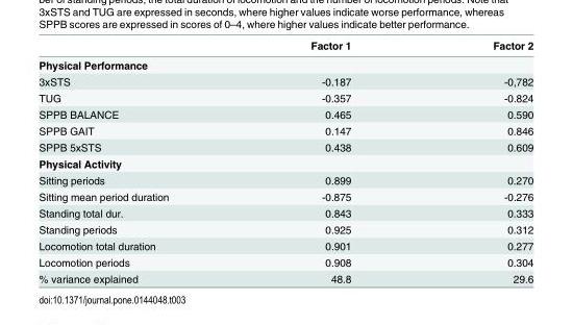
<table><thead><tr><td></td><td>Factor 1</td><td>Factor 2</td></tr></thead><tbody><tr><td colspan="3">Physical Performance</td></tr><tr><td>3xSTS</td><td>-0.187</td><td>-0,782</td></tr><tr><td>TUG</td><td>-0.357</td><td>-0.824</td></tr><tr><td>SPPB BALANCE</td><td>0.465</td><td>0.590</td></tr><tr><td>SPPB GAIT</td><td>0.147</td><td>0.846</td></tr><tr><td>SPPB 5xSTS</td><td>0.438</td><td>0.609</td></tr><tr><td colspan="3">Physical Activity</td></tr><tr><td>Sitting periods</td><td>0.899</td><td>0.270</td></tr><tr><td>Sitting mean period duration</td><td>-0.875</td><td>-0.276</td></tr><tr><td>Standing total dur.</td><td>0.843</td><td>0.333</td></tr><tr><td>Standing periods</td><td>0.925</td><td>0.312</td></tr><tr><td>Locomotion total duration</td><td>0.901</td><td>0.277</td></tr><tr><td>Locomotion periods</td><td>0.908</td><td>0.304</td></tr><tr><td>% variance explained</td><td>48.8</td><td>29.6</td></tr></tbody></table>